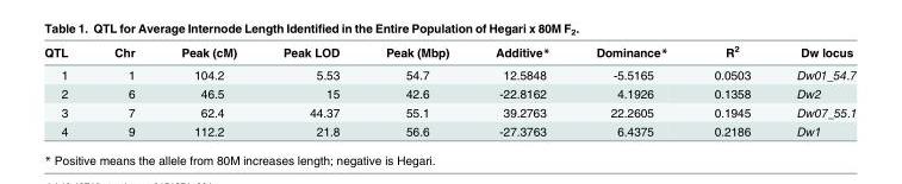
<table><thead><tr><td>QTL</td><td>Chr</td><td>Peak (cM)</td><td>Peak LOD</td><td>Peak (Mbp)</td><td>Additive*</td><td>Dominance*</td><td>R<sup>2</sup></td><td>Dw locus</td></tr></thead><tbody><tr><td>1</td><td>1</td><td>104.2</td><td>5.53</td><td>54.7</td><td>12.5848</td><td>-5.5165</td><td>0.0503</td><td>Dw01_54.7</td></tr><tr><td>2</td><td>6</td><td>46.5</td><td>15</td><td>42.6</td><td>-22.8162</td><td>4.1926</td><td>0.1358</td><td>Dw2</td></tr><tr><td>3</td><td>7</td><td>62.4</td><td>44.37</td><td>55.1</td><td>39.2763</td><td>22.2605</td><td>0.1945</td><td>Dw07_55.1</td></tr><tr><td>4</td><td>9</td><td>112.2</td><td>21.8</td><td>56.6</td><td>-27.3763</td><td>6.4375</td><td>0.2186</td><td>Dw1</td></tr></tbody></table>